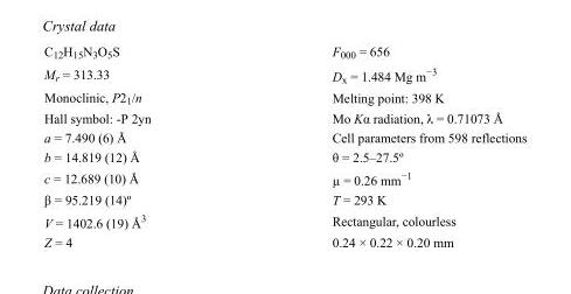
<table><tbody><tr><td>C<sub>12</sub>H<sub>15</sub>N<sub>3</sub>O<sub>5</sub>S</td><td>F000 = 656</td></tr><tr><td>M<sub>r</sub> = 313.33</td><td>D<sub>x</sub> = 1.484 Mg m<sup>−3</sup></td></tr><tr><td>Monoclinic, P2<sub>1</sub>/n</td><td>Melting point: 398 K</td></tr><tr><td>Hall symbol: -P 2yn</td><td>Mo Kα radiation, λ = 0.71073 Å</td></tr><tr><td>a = 7.490 (6) Å</td><td>Cell parameters from 598 reflections</td></tr><tr><td>b = 14.819 (12) Å</td><td>θ = 2.5–27.5º</td></tr><tr><td>c = 12.689 (10) Å</td><td>µ = 0.26 mm<sup>−1</sup></td></tr><tr><td>β = 95.219 (14)º</td><td>T = 293 K</td></tr><tr><td>V = 1402.6 (19) Å<sup>3</sup></td><td>Rectangular, colourless</td></tr><tr><td>Z = 4</td><td>0.24 × 0.22 × 0.20 mm</td></tr></tbody></table>